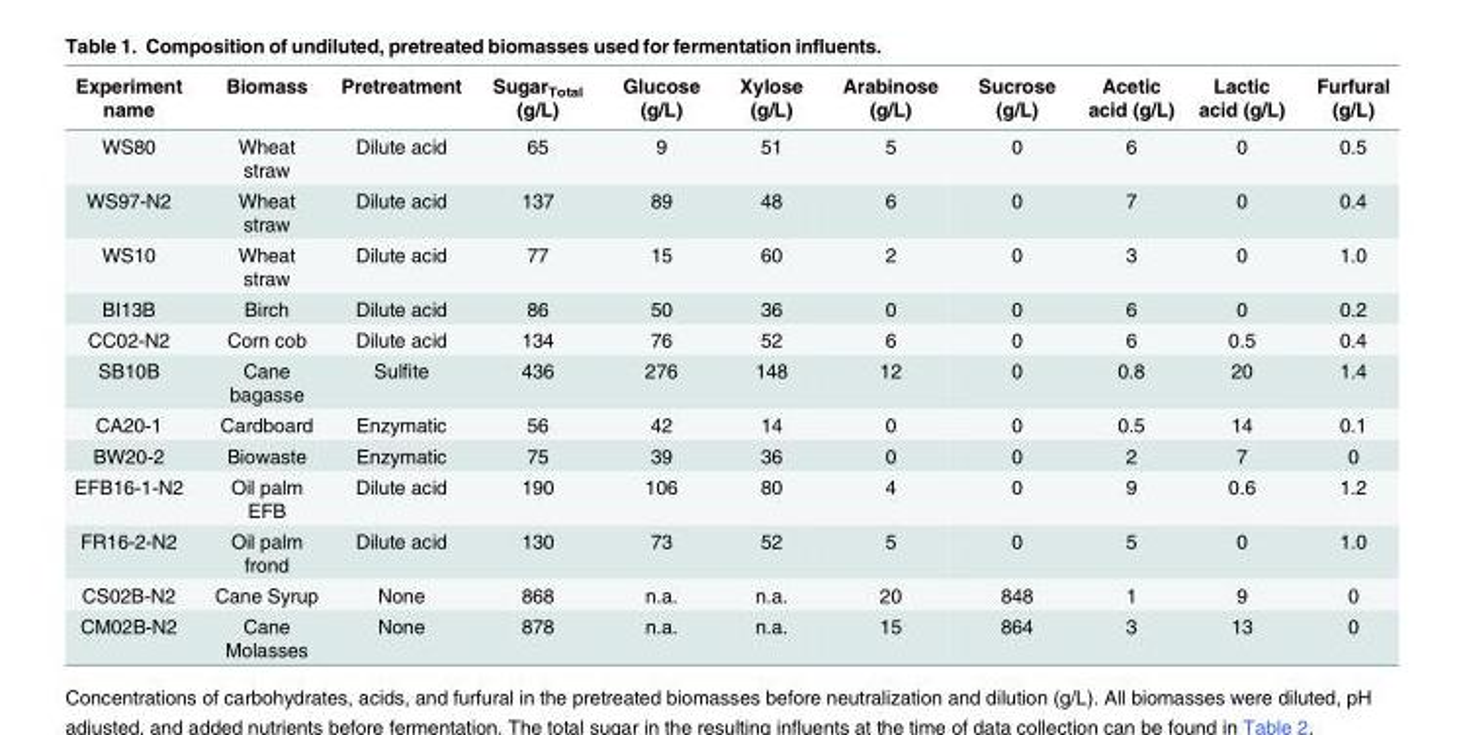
<table><thead><tr><td>Experiment name</td><td>Biomass</td><td>Pretreatment</td><td>Sugar<sub>Total</sub> (g/L)</td><td>Glucose (g/L)</td><td>Xylose (g/L)</td><td>Arabinose (g/L)</td><td>Sucrose (g/L)</td><td>Acetic acid (g/L)</td><td>Lactic acid (g/L)</td><td>Furfural (g/L)</td></tr></thead><tbody><tr><td>WS80</td><td>Wheat straw</td><td>Dilute acid</td><td>65</td><td>9</td><td>51</td><td>5</td><td>0</td><td>6</td><td>0</td><td>0.5</td></tr><tr><td>WS97-N2</td><td>Wheat straw</td><td>Dilute acid</td><td>137</td><td>89</td><td>48</td><td>6</td><td>0</td><td>7</td><td>0</td><td>0.4</td></tr><tr><td>WS10</td><td>Wheat straw</td><td>Dilute acid</td><td>77</td><td>15</td><td>60</td><td>2</td><td>0</td><td>3</td><td>0</td><td>1.0</td></tr><tr><td>BI13B</td><td>Birch</td><td>Dilute acid</td><td>86</td><td>50</td><td>36</td><td>0</td><td>0</td><td>6</td><td>0</td><td>0.2</td></tr><tr><td>CC02-N2</td><td>Corn cob</td><td>Dilute acid</td><td>134</td><td>76</td><td>52</td><td>6</td><td>0</td><td>6</td><td>0.5</td><td>0.4</td></tr><tr><td>SB10B</td><td>Cane bagasse</td><td>Sulfite</td><td>436</td><td>276</td><td>148</td><td>12</td><td>0</td><td>0.8</td><td>20</td><td>1.4</td></tr><tr><td>CA20-1</td><td>Cardboard</td><td>Enzymatic</td><td>56</td><td>42</td><td>14</td><td>0</td><td>0</td><td>0.5</td><td>14</td><td>0.1</td></tr><tr><td>BW20-2</td><td>Biowaste</td><td>Enzymatic</td><td>75</td><td>39</td><td>36</td><td>0</td><td>0</td><td>2</td><td>7</td><td>0</td></tr><tr><td>EFB16-1-N2</td><td>Oil palm EFB</td><td>Dilute acid</td><td>190</td><td>106</td><td>80</td><td>4</td><td>0</td><td>9</td><td>0.6</td><td>1.2</td></tr><tr><td>FR16-2-N2</td><td>Oil palm frond</td><td>Dilute acid</td><td>130</td><td>73</td><td>52</td><td>5</td><td>0</td><td>5</td><td>0</td><td>1.0</td></tr><tr><td>CS02B-N2</td><td>Cane Syrup</td><td>None</td><td>868</td><td>n.a.</td><td>n.a.</td><td>20</td><td>848</td><td>1</td><td>9</td><td>0</td></tr><tr><td>CM02B-N2</td><td>Cane Molasses</td><td>None</td><td>878</td><td>n.a.</td><td>n.a.</td><td>15</td><td>864</td><td>3</td><td>13</td><td>0</td></tr></tbody></table>